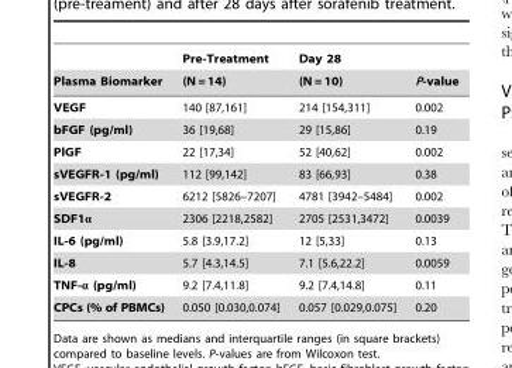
<table><thead><tr><td rowspan="2">Plasma Biomarker</td><td rowspan="2">Pre-Treatment (N = 14)</td><td rowspan="2">Day 28 (N = 10)</td><td rowspan="2">P-value</td></tr><tr></tr></thead><tbody><tr><td>VEGF</td><td>140 [87,161]</td><td>214 [154,311]</td><td>0.002</td></tr><tr><td>bFGF (pg/ml)</td><td>36 [19,68]</td><td>29 [15,86]</td><td>0.19</td></tr><tr><td>PlGF</td><td>22 [17,34]</td><td>52 [40,62]</td><td>0.002</td></tr><tr><td>sVEGFR-1 (pg/ml)</td><td>112 [99,142]</td><td>83 [66,93]</td><td>0.38</td></tr><tr><td>sVEGFR-2</td><td>6212 [5826–7207]</td><td>4781 [3942–5484]</td><td>0.002</td></tr><tr><td>SDF1α</td><td>2306 [2218,2582]</td><td>2705 [2531,3472]</td><td>0.0039</td></tr><tr><td>IL-6 (pg/ml)</td><td>5.8 [3.9,17.2]</td><td>12 [5,33]</td><td>0.13</td></tr><tr><td>IL-8</td><td>5.7 [4.3,14.5]</td><td>7.1 [5.6,22.2]</td><td>0.0059</td></tr><tr><td>TNF-α (pg/ml)</td><td>9.2 [7.4,11.8]</td><td>9.2 [7.4,14.8]</td><td>0.11</td></tr><tr><td>CPCs (% of PBMCs)</td><td>0.050 [0.030,0.074]</td><td>0.057 [0.029,0.075]</td><td>0.20</td></tr></tbody></table>